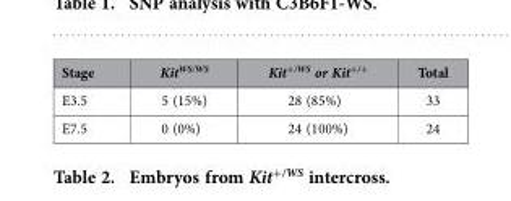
<table><thead><tr><td>Stage</td><td>Kit<sup>WS/WS</sup></td><td>Kit<sup>+/WS</sup> or Kit<sup>+/+</sup></td><td>Total</td></tr></thead><tbody><tr><td>E3.5</td><td>5 (15%)</td><td>28 (85%)</td><td>33</td></tr><tr><td>E7.5</td><td>0 (0%)</td><td>24 (100%)</td><td>24</td></tr></tbody></table>